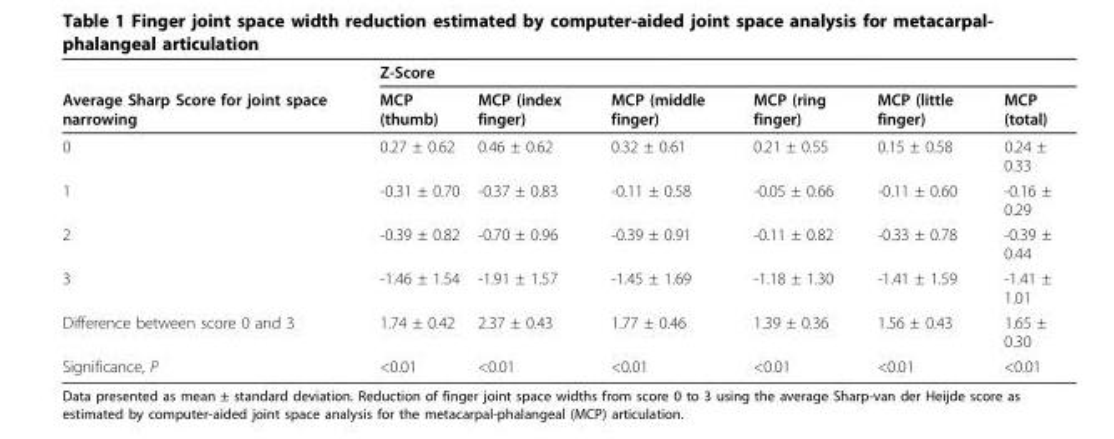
<table><thead><tr><td rowspan="2">Average Sharp Score for joint space narrowing</td><td colspan="6">Z-Score</td></tr><tr><td>MCP (thumb)</td><td>MCP (index finger)</td><td>MCP (middle finger)</td><td>MCP (ring finger)</td><td>MCP (little finger)</td><td>MCP (total)</td></tr></thead><tbody><tr><td>0</td><td>0.27 ± 0.62</td><td>0.46 ± 0.62</td><td>0.32 ± 0.61</td><td>0.21 ± 0.55</td><td>0.15 ± 0.58</td><td>0.24 ± 0.33</td></tr><tr><td>1</td><td>-0.31 ± 0.70</td><td>-0.37 ± 0.83</td><td>-0.11 ± 0.58</td><td>-0.05 ± 0.66</td><td>-0.11 ± 0.60</td><td>-0.16 ± 0.29</td></tr><tr><td>2</td><td>-0.39 ± 0.82</td><td>-0.70 ± 0.96</td><td>-0.39 ± 0.91</td><td>-0.11 ± 0.82</td><td>-0.33 ± 0.78</td><td>-0.39 ± 0.44</td></tr><tr><td>3</td><td>-1.46 ± 1.54</td><td>-1.91 ± 1.57</td><td>-1.45 ± 1.69</td><td>-1.18 ± 1.30</td><td>-1.41 ± 1.59</td><td>-1.41 ± 1.01</td></tr><tr><td>Difference between score 0 and 3</td><td>1.74 ± 0.42</td><td>2.37 ± 0.43</td><td>1.77 ± 0.46</td><td>1.39 ± 0.36</td><td>1.56 ± 0.43</td><td>1.65 ± 0.30</td></tr><tr><td>Significance, P</td><td>&lt;0.01</td><td>&lt;0.01</td><td>&lt;0.01</td><td>&lt;0.01</td><td>&lt;0.01</td><td>&lt;0.01</td></tr></tbody></table>